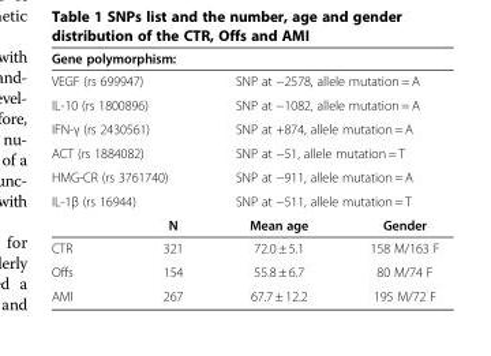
<table><thead><tr><td colspan="4">Gene polymorphism:</td></tr></thead><tbody><tr><td colspan="2">VEGF (rs 699947)</td><td colspan="2">SNP at −2578, allele mutation = A</td></tr><tr><td colspan="2">IL-10 (rs 1800896)</td><td colspan="2">SNP at −1082, allele mutation = A</td></tr><tr><td colspan="2">IFN-γ (rs 2430561)</td><td colspan="2">SNP at +874, allele mutation = A</td></tr><tr><td colspan="2">ACT (rs 1884082)</td><td colspan="2">SNP at −51, allele mutation = T</td></tr><tr><td colspan="2">HMG-CR (rs 3761740)</td><td colspan="2">SNP at −911, allele mutation = A</td></tr><tr><td colspan="2">IL-1β (rs 16944)</td><td colspan="2">SNP at −511, allele mutation = T</td></tr><tr><td></td><td>N</td><td>Mean age</td><td>Gender</td></tr><tr><td>CTR</td><td>321</td><td>72.0 ± 5.1</td><td>158 M/163 F</td></tr><tr><td>Offs</td><td>154</td><td>55.8 ± 6.7</td><td>80 M/74 F</td></tr><tr><td>AMI</td><td>267</td><td>67.7 ± 12.2</td><td>195 M/72 F</td></tr></tbody></table>